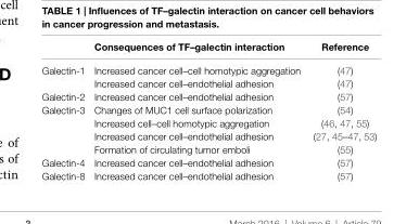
<table><thead><tr><td></td><td>Consequences of TF–galectin interaction</td><td>Reference</td></tr></thead><tbody><tr><td rowspan="2">Galectin-1</td><td>Increased cancer cell–cell homotypic aggregation</td><td>(47)</td></tr><tr><td>Increased cancer cell–endothelial adhesion</td><td>(47)</td></tr><tr><td>Galectin-2</td><td>Increased cancer cell–endothelial adhesion</td><td>(57)</td></tr><tr><td rowspan="4">Galectin-3</td><td>Changes of MUC1 cell surface polarization</td><td>(54)</td></tr><tr><td>Increased cell–cell homotypic aggregation</td><td>(46, 47, 55)</td></tr><tr><td>Increased cancer cell–endothelial adhesion</td><td>(27, 45–47, 53)</td></tr><tr><td>Formation of circulating tumor emboli</td><td>(55)</td></tr><tr><td>Galectin-4</td><td>Increased cancer cell–endothelial adhesion</td><td>(57)</td></tr><tr><td>Galectin-8</td><td>Increased cancer cell–endothelial adhesion</td><td>(57)</td></tr></tbody></table>